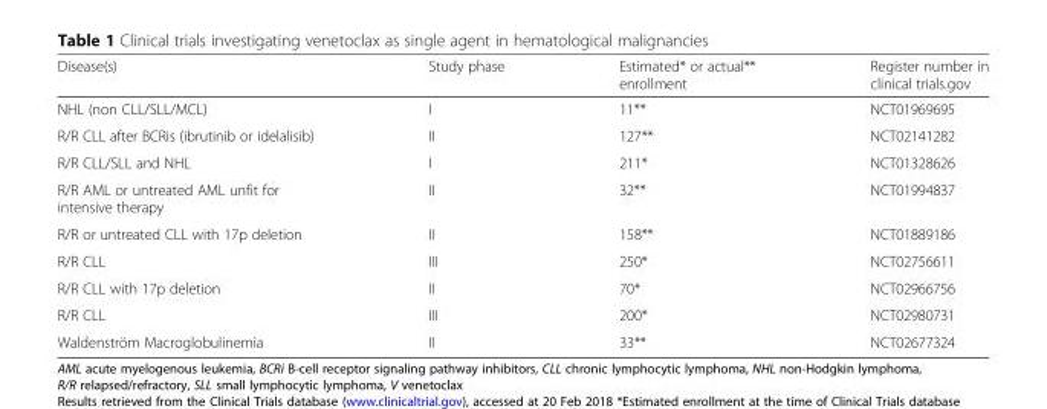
<table><thead><tr><td>Disease(s)</td><td>Study phase</td><td>Estimated* or actual** enrollment</td><td>Register number in clinical trials.gov</td></tr></thead><tbody><tr><td>NHL (non CLL/SLL/MCL)</td><td>I</td><td>11**</td><td>NCT01969695</td></tr><tr><td>R/R CLL after BCRis (ibrutinib or idelalisib)</td><td>II</td><td>127**</td><td>NCT02141282</td></tr><tr><td>R/R CLL/SLL and NHL</td><td>I</td><td>211*</td><td>NCT01328626</td></tr><tr><td>R/R AML or untreated AML unfit for intensive therapy</td><td>II</td><td>32**</td><td>NCT01994837</td></tr><tr><td>R/R or untreated CLL with 17p deletion</td><td>II</td><td>158**</td><td>NCT01889186</td></tr><tr><td>R/R CLL</td><td>III</td><td>250*</td><td>NCT02756611</td></tr><tr><td>R/R CLL with 17p deletion</td><td>II</td><td>70*</td><td>NCT02966756</td></tr><tr><td>R/R CLL</td><td>III</td><td>200*</td><td>NCT02980731</td></tr><tr><td>Waldenström Macroglobulinemia</td><td>II</td><td>33**</td><td>NCT02677324</td></tr></tbody></table>